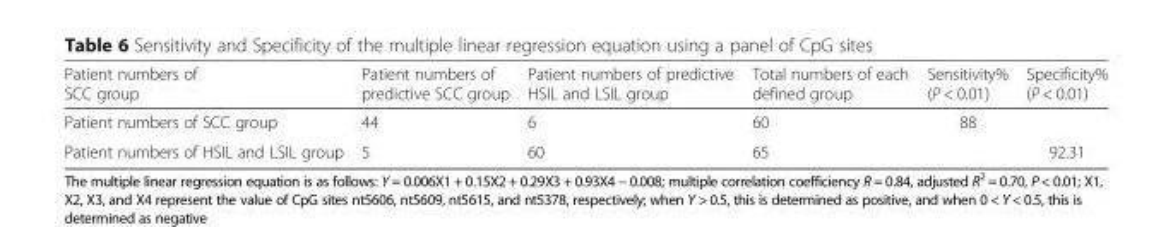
<table><thead><tr><td>Patient numbers of SCC group</td><td>Patient numbers of predictive SCC group</td><td>Patient numbers of predictive HSIL and LSIL group</td><td>Total numbers of each defined group</td><td>Sensitivity% (P &lt; 0.01)</td><td>Specificity% (P &lt; 0.01)</td></tr></thead><tbody><tr><td>Patient numbers of SCC group</td><td>44</td><td>6</td><td>60</td><td>88</td><td></td></tr><tr><td>Patient numbers of HSIL and LSIL group</td><td>5</td><td>60</td><td>65</td><td></td><td>92.31</td></tr></tbody></table>